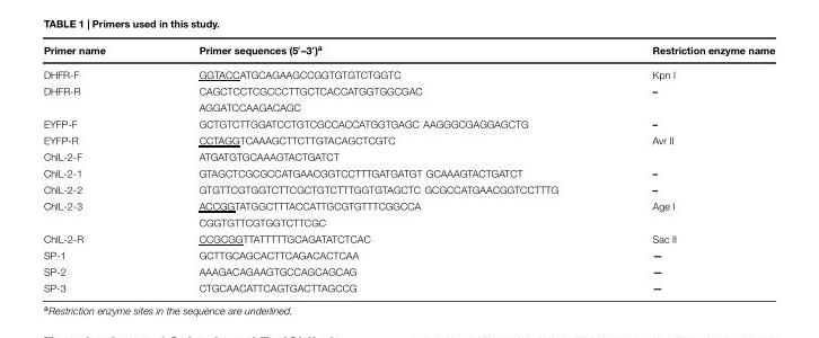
<table><thead><tr><td>Primer name</td><td>Primer sequences (5′–3′)<sup>a</sup></td><td>Restriction enzyme name</td></tr></thead><tbody><tr><td>DHFR-F</td><td>GGTACCATGCAGAAGCCGGTGTGTCTGGTC</td><td>Kpn I</td></tr><tr><td rowspan="2">DHFR-R</td><td>CAGCTCCTCGCCCTTGCTCACCATGGTGGCGAC</td><td>–</td></tr><tr><td>AGGATCCAAGACAGC</td><td></td></tr><tr><td>EYFP-F</td><td>GCTGTCTTGGATCCTGTCGCCACCATGGTGAGC AAGGGCGAGGAGCTG</td><td>–</td></tr><tr><td>EYFP-R</td><td>CCTAGGTCAAAGCTTCTTGTACAGCTCGTC</td><td>Avr II</td></tr><tr><td>ChlL-2-F</td><td>ATGATGTGCAAAGTACTGATCT</td><td></td></tr><tr><td>ChlL-2-1</td><td>GTAGCTCGCGCCATGAACGGTCCTTTGATGATGT GCAAAGTACTGATCT</td><td>–</td></tr><tr><td>ChlL-2-2</td><td>GTGTTCGTGGTCTTCGCTGTCTTTGGTGTAGCTC GCGCCATGAACGGTCCTTTG</td><td>–</td></tr><tr><td rowspan="2">ChlL-2-3</td><td>ACCGGTATGGCTTTACCATTGCGTGTTTCGGCCA</td><td>Age I</td></tr><tr><td>CGGTGTTCGTGGTCTTCGC</td><td></td></tr><tr><td>ChlL-2-R</td><td>CCGCGGTTATTTTTGCAGATATCTCAC</td><td>Sac II</td></tr><tr><td>SP-1</td><td>GCTTGCAGCACTTCAGACACTCAA</td><td>—</td></tr><tr><td>SP-2</td><td>AAAGACAGAAGTGCCAGCAGCAG</td><td>—</td></tr><tr><td>SP-3</td><td>CTGCAACATTCAGTGACTTAGCCG</td><td>—</td></tr></tbody></table>